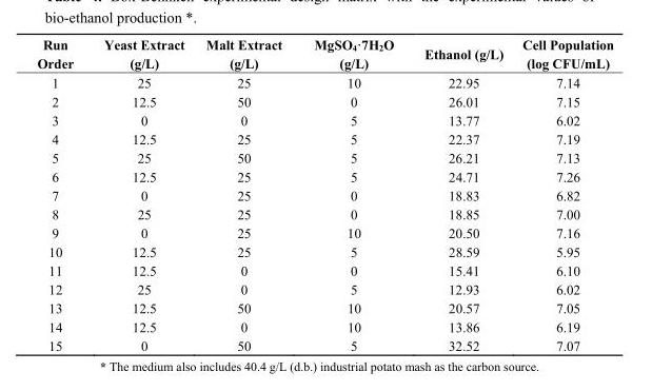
<table><thead><tr><td>Run Order</td><td>Yeast Extract (g/L)</td><td>Malt Extract (g/L)</td><td>MgSO<sub>4</sub>·7H<sub>2</sub>O (g/L)</td><td>Ethanol (g/L)</td><td>Cell Population (log CFU/mL)</td></tr></thead><tbody><tr><td>1</td><td>25</td><td>25</td><td>10</td><td>22.95</td><td>7.14</td></tr><tr><td>2</td><td>12.5</td><td>50</td><td>0</td><td>26.01</td><td>7.15</td></tr><tr><td>3</td><td>0</td><td>0</td><td>5</td><td>13.77</td><td>6.02</td></tr><tr><td>4</td><td>12.5</td><td>25</td><td>5</td><td>22.37</td><td>7.19</td></tr><tr><td>5</td><td>25</td><td>50</td><td>5</td><td>26.21</td><td>7.13</td></tr><tr><td>6</td><td>12.5</td><td>25</td><td>5</td><td>24.71</td><td>7.26</td></tr><tr><td>7</td><td>0</td><td>25</td><td>0</td><td>18.83</td><td>6.82</td></tr><tr><td>8</td><td>25</td><td>25</td><td>0</td><td>18.85</td><td>7.00</td></tr><tr><td>9</td><td>0</td><td>25</td><td>10</td><td>20.50</td><td>7.16</td></tr><tr><td>10</td><td>12.5</td><td>25</td><td>5</td><td>28.59</td><td>5.95</td></tr><tr><td>11</td><td>12.5</td><td>0</td><td>0</td><td>15.41</td><td>6.10</td></tr><tr><td>12</td><td>25</td><td>0</td><td>5</td><td>12.93</td><td>6.02</td></tr><tr><td>13</td><td>12.5</td><td>50</td><td>10</td><td>20.57</td><td>7.05</td></tr><tr><td>14</td><td>12.5</td><td>0</td><td>10</td><td>13.86</td><td>6.19</td></tr><tr><td>15</td><td>0</td><td>50</td><td>5</td><td>32.52</td><td>7.07</td></tr></tbody></table>